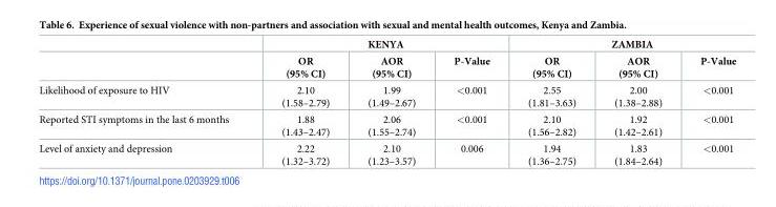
<table><thead><tr><td rowspan="2"></td><td colspan="3">KENYA</td><td colspan="3">ZAMBIA</td></tr><tr><td>OR (95% CI)</td><td>AOR (95% CI)</td><td>P-Value</td><td>OR (95% CI)</td><td>AOR (95% CI)</td><td>P-Value</td></tr></thead><tbody><tr><td>Likelihood of exposure to HIV</td><td>2.10 (1.58–2.79)</td><td>1.99 (1.49–2.67)</td><td>&lt;0.001</td><td>2.55 (1.81–3.63)</td><td>2.00 (1.38–2.88)</td><td>&lt;0.001</td></tr><tr><td>Reported STI symptoms in the last 6 months</td><td>1.88 (1.43–2.47)</td><td>2.06 (1.55–2.74)</td><td>&lt;0.001</td><td>2.10 (1.56–2.82)</td><td>1.92 (1.42–2.61)</td><td>&lt;0.001</td></tr><tr><td>Level of anxiety and depression</td><td>2.22 (1.32–3.72)</td><td>2.10 (1.23–3.57)</td><td>0.006</td><td>1.94 (1.36–2.75)</td><td>1.83 (1.84–2.64)</td><td>&lt;0.001</td></tr></tbody></table>